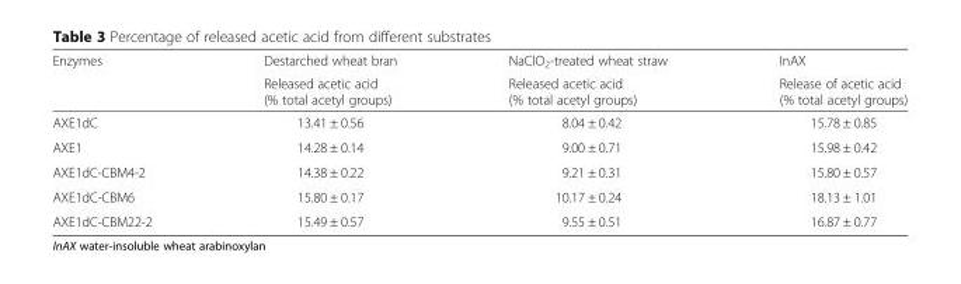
<table><thead><tr><td rowspan="2">Enzymes</td><td rowspan="2">Destarched wheat bran Released acetic acid (% total acetyl groups)</td><td rowspan="2">NaClO<sub>2</sub>-treated wheat straw Released acetic acid (% total acetyl groups)</td><td rowspan="2">InAX Release of acetic acid (% total acetyl groups)</td></tr><tr></tr></thead><tbody><tr><td>AXE1dC</td><td>13.41 ± 0.56</td><td>8.04 ± 0.42</td><td>15.78 ± 0.85</td></tr><tr><td>AXE1</td><td>14.28 ± 0.14</td><td>9.00 ± 0.71</td><td>15.98 ± 0.42</td></tr><tr><td>AXE1dC-CBM4-2</td><td>14.38 ± 0.22</td><td>9.21 ± 0.31</td><td>15.80 ± 0.57</td></tr><tr><td>AXE1dC-CBM6</td><td>15.80 ± 0.17</td><td>10.17 ± 0.24</td><td>18.13 ± 1.01</td></tr><tr><td>AXE1dC-CBM22-2</td><td>15.49 ± 0.57</td><td>9.55 ± 0.51</td><td>16.87 ± 0.77</td></tr></tbody></table>